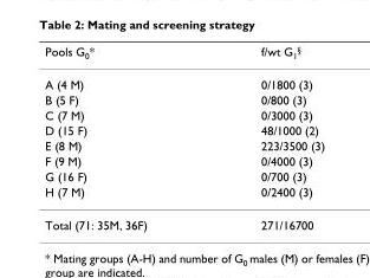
<table><thead><tr><td>Pools G<sub>0</sub>*</td><td>f/wt G<sub>1</sub><sup>§</sup></td></tr></thead><tbody><tr><td>A (4 M)</td><td>0/1800 (3)</td></tr><tr><td>B (5 F)</td><td>0/800 (3)</td></tr><tr><td>C (7 M)</td><td>0/3000 (3)</td></tr><tr><td>D (15 F)</td><td>48/1000 (2)</td></tr><tr><td>E (8 M)</td><td>223/3500 (3)</td></tr><tr><td>F (9 M)</td><td>0/4000 (3)</td></tr><tr><td>G (16 F)</td><td>0/700 (3)</td></tr><tr><td>H (7 M)</td><td>0/2400 (3)</td></tr><tr><td>Total (71: 35M, 36F)</td><td>271/16700</td></tr></tbody></table>